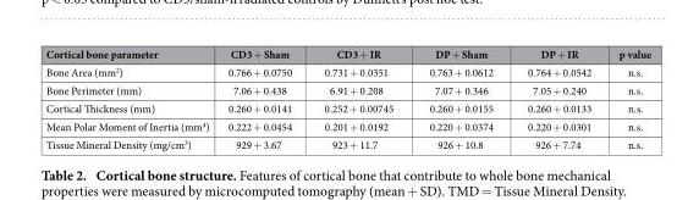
<table><thead><tr><td>Cortical bone parameter</td><td>CD3 + Sham</td><td>CD3 + IR</td><td>DP + Sham</td><td>DP + IR</td><td>p value</td></tr></thead><tbody><tr><td>Bone Area (mm<sup>2</sup>)</td><td>0.766 + 0.0750</td><td>0.731 + 0.0351</td><td>0.763 + 0.0612</td><td>0.764 + 0.0542</td><td>n.s.</td></tr><tr><td>Bone Perimeter (mm)</td><td>7.06 + 0.438</td><td>6.91 + 0.208</td><td>7.07 + 0.346</td><td>7.05 + 0.240</td><td>n.s.</td></tr><tr><td>Cortical Thickness (mm)</td><td>0.260 + 0.0141</td><td>0.252 + 0.00745</td><td>0.260 + 0.0155</td><td>0.260 + 0.0133</td><td>n.s.</td></tr><tr><td>Mean Polar Moment of Inertia (mm<sup>4</sup>)</td><td>0.222 + 0.0454</td><td>0.201 + 0.0192</td><td>0.220 + 0.0374</td><td>0.220 + 0.0301</td><td>n.s.</td></tr><tr><td>Tissue Mineral Density (mg/cm<sup>3</sup>)</td><td>929 + 3.67</td><td>923 + 11.7</td><td>926 + 10.8</td><td>926 + 7.74</td><td>n.s.</td></tr></tbody></table>